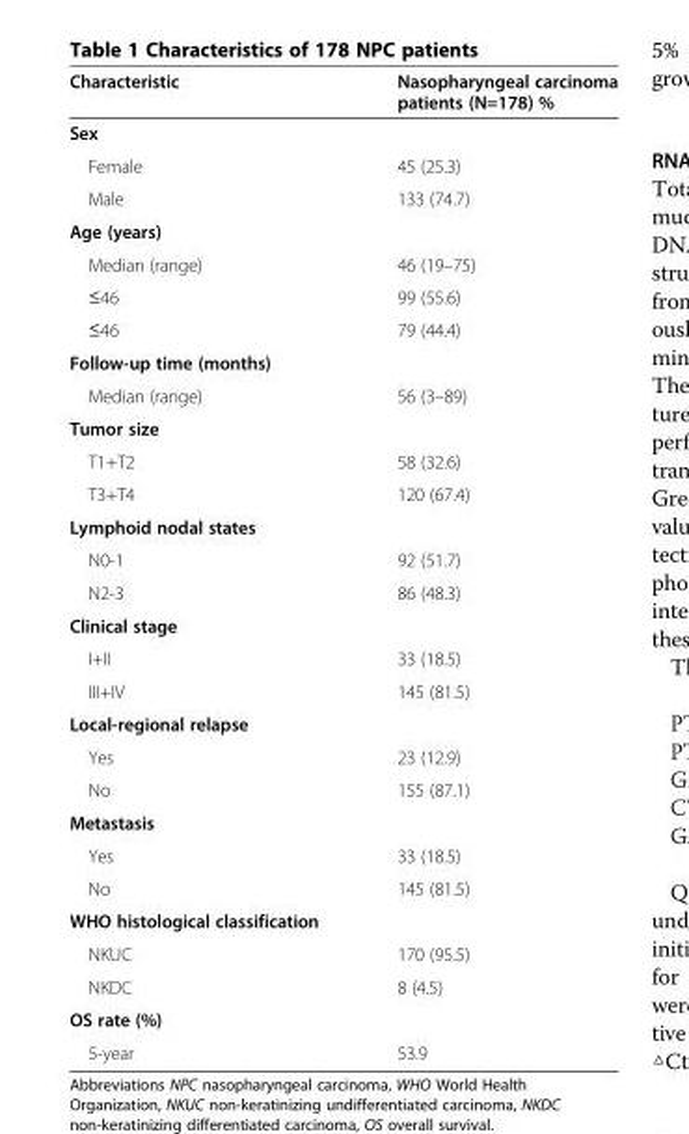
<table><thead><tr><td>Characteristic</td><td>Nasopharyngeal carcinoma patients (N=178) %</td></tr></thead><tbody><tr><td colspan="2">Sex</td></tr><tr><td>Female</td><td>45 (25.3)</td></tr><tr><td>Male</td><td>133 (74.7)</td></tr><tr><td colspan="2">Age (years)</td></tr><tr><td>Median (range)</td><td>46 (19–75)</td></tr><tr><td>≤46</td><td>99 (55.6)</td></tr><tr><td>≤46</td><td>79 (44.4)</td></tr><tr><td colspan="2">Follow-up time (months)</td></tr><tr><td>Median (range)</td><td>56 (3–89)</td></tr><tr><td colspan="2">Tumor size</td></tr><tr><td>T1+T2</td><td>58 (32.6)</td></tr><tr><td>T3+T4</td><td>120 (67.4)</td></tr><tr><td colspan="2">Lymphoid nodal states</td></tr><tr><td>N0-1</td><td>92 (51.7)</td></tr><tr><td>N2-3</td><td>86 (48.3)</td></tr><tr><td colspan="2">Clinical stage</td></tr><tr><td>I+II</td><td>33 (18.5)</td></tr><tr><td>III+IV</td><td>145 (81.5)</td></tr><tr><td colspan="2">Local-regional relapse</td></tr><tr><td>Yes</td><td>23 (12.9)</td></tr><tr><td>No</td><td>155 (87.1)</td></tr><tr><td colspan="2">Metastasis</td></tr><tr><td>Yes</td><td>33 (18.5)</td></tr><tr><td>No</td><td>145 (81.5)</td></tr><tr><td colspan="2">WHO histological classification</td></tr><tr><td>NKUC</td><td>170 (95.5)</td></tr><tr><td>NKDC</td><td>8 (4.5)</td></tr><tr><td colspan="2">OS rate (%)</td></tr><tr><td>5-year</td><td>53.9</td></tr></tbody></table>